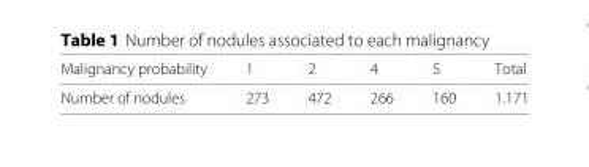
<table><thead><tr><td>Malignancy probability</td><td>1</td><td>2</td><td>4</td><td>5</td><td>Total</td></tr></thead><tbody><tr><td>Number of nodules</td><td>273</td><td>472</td><td>266</td><td>160</td><td>1.171</td></tr></tbody></table>